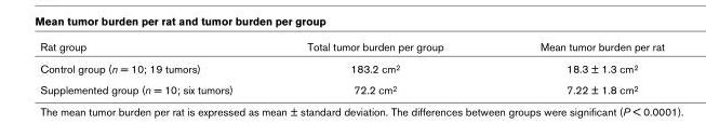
<table><thead><tr><td>Rat group</td><td>Total tumor burden per group</td><td>Mean tumor burden per rat</td></tr></thead><tbody><tr><td>Control group (n = 10; 19 tumors)</td><td>183.2 cm2</td><td>18.3 ± 1.3 cm2</td></tr><tr><td>Supplemented group (n = 10; six tumors)</td><td>72.2 cm2</td><td>7.22 ± 1.8 cm2</td></tr></tbody></table>